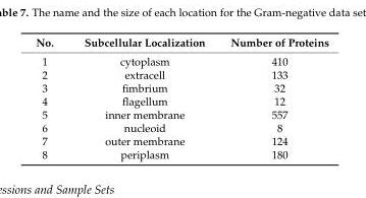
<table><thead><tr><td>No.</td><td>Subcellular Localization</td><td>Number of Proteins</td></tr></thead><tbody><tr><td>1</td><td>cytoplasm</td><td>410</td></tr><tr><td>2</td><td>extracell</td><td>133</td></tr><tr><td>3</td><td>fimbrium</td><td>32</td></tr><tr><td>4</td><td>flagellum</td><td>12</td></tr><tr><td>5</td><td>inner membrane</td><td>557</td></tr><tr><td>6</td><td>nucleoid</td><td>8</td></tr><tr><td>7</td><td>outer membrane</td><td>124</td></tr><tr><td>8</td><td>periplasm</td><td>180</td></tr></tbody></table>